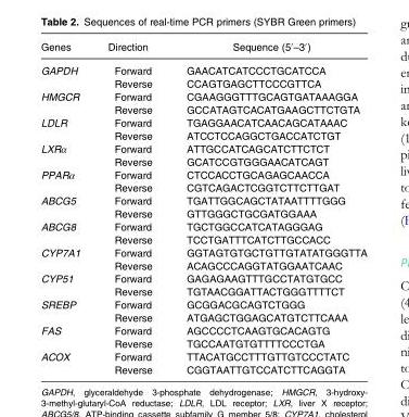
<table><thead><tr><td>Genes</td><td>Direction</td><td>Sequence (5′–3′)</td></tr></thead><tbody><tr><td rowspan="2">GAPDH</td><td>Forward</td><td>GAACATCATCCCTGCATCCA</td></tr><tr><td>Reverse</td><td>CCAGTGAGCTTCCCGTTCA</td></tr><tr><td rowspan="2">HMGCR</td><td>Forward</td><td>CGAAGGGTTTGCAGTGATAAAGGA</td></tr><tr><td>Reverse</td><td>GCCATAGTCACATGAAGCTTCTGTA</td></tr><tr><td rowspan="2">LDLR</td><td>Forward</td><td>TGAGGAACATCAACAGCATAAAC</td></tr><tr><td>Reverse</td><td>ATCCTCCAGGCTGACCATCTGT</td></tr><tr><td rowspan="2">LXRα</td><td>Forward</td><td>ATTGCCATCAGCATCTTCTCT</td></tr><tr><td>Reverse</td><td>GCATCCGTGGGAACATCAGT</td></tr><tr><td rowspan="2">PPARα</td><td>Forward</td><td>CTCCACCTGCAGAGCAACCA</td></tr><tr><td>Reverse</td><td>CGTCAGACTCGGTCTTCTTGAT</td></tr><tr><td rowspan="2">ABCG5</td><td>Forward</td><td>TGATTGGCAGCTATAATTTTGGG</td></tr><tr><td>Reverse</td><td>GTTGGGCTGCGATGGAAA</td></tr><tr><td rowspan="2">ABCG8</td><td>Forward</td><td>TGCTGGCCATCATAGGGAG</td></tr><tr><td>Reverse</td><td>TCCTGATTTCATCTTGCCACC</td></tr><tr><td rowspan="2">CYP7A1</td><td>Forward</td><td>GGTAGTGTGCTGTTGTATATGGGTTA</td></tr><tr><td>Reverse</td><td>ACAGCCCAGGTATGGAATCAAC</td></tr><tr><td rowspan="2">CYP51</td><td>Forward</td><td>GAGAGAAGTTTGCCTATGTGCC</td></tr><tr><td>Reverse</td><td>TGTAACGGATTACTGGGTTTTCT</td></tr><tr><td rowspan="2">SREBP</td><td>Forward</td><td>GCGGACGCAGTCTGGG</td></tr><tr><td>Reverse</td><td>ATGAGCTGGAGCATGTCTTCAAA</td></tr><tr><td rowspan="2">FAS</td><td>Forward</td><td>AGCCCCTCAAGTGCACAGTG</td></tr><tr><td>Reverse</td><td>TGCCAATGTGTTTTCCCTGA</td></tr><tr><td rowspan="2">ACOX</td><td>Forward</td><td>TTACATGCCTTTGTTGTCCCTATC</td></tr><tr><td>Reverse</td><td>CGGTAATTGTCCATCTTCAGGTA</td></tr></tbody></table>